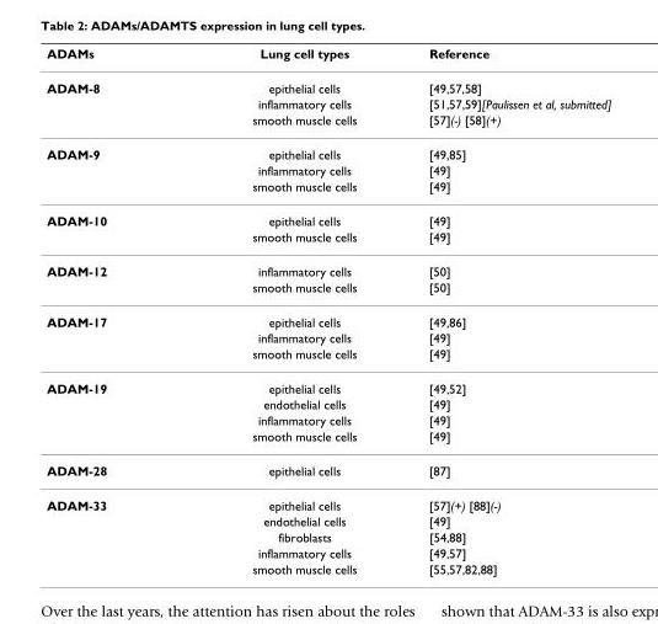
<table><thead><tr><td>ADAMs</td><td>Lung cell types</td><td>Reference</td></tr></thead><tbody><tr><td rowspan="3">ADAM-8</td><td>epithelial cells</td><td>[49,57,58]</td></tr><tr><td>inflammatory cells</td><td>[51,57,59][Paulissen et al, submitted]</td></tr><tr><td>smooth muscle cells</td><td>[57](-) [58](+)</td></tr><tr><td rowspan="3">ADAM-9</td><td>epithelial cells</td><td>[49,85]</td></tr><tr><td>inflammatory cells</td><td>[49]</td></tr><tr><td>smooth muscle cells</td><td>[49]</td></tr><tr><td rowspan="2">ADAM-10</td><td>epithelial cells</td><td>[49]</td></tr><tr><td>smooth muscle cells</td><td>[49]</td></tr><tr><td rowspan="2">ADAM-12</td><td>inflammatory cells</td><td>[50]</td></tr><tr><td>smooth muscle cells</td><td>[50]</td></tr><tr><td rowspan="3">ADAM-17</td><td>epithelial cells</td><td>[49,86]</td></tr><tr><td>inflammatory cells</td><td>[49]</td></tr><tr><td>smooth muscle cells</td><td>[49]</td></tr><tr><td rowspan="4">ADAM-19</td><td>epithelial cells</td><td>[49,52]</td></tr><tr><td>endothelial cells</td><td>[49]</td></tr><tr><td>inflammatory cells</td><td>[49]</td></tr><tr><td>smooth muscle cells</td><td>[49]</td></tr><tr><td>ADAM-28</td><td>epithelial cells</td><td>[87]</td></tr><tr><td rowspan="5">ADAM-33</td><td>epithelial cells</td><td>[57](+) [88](-)</td></tr><tr><td>endothelial cells</td><td>[49]</td></tr><tr><td>fibroblasts</td><td>[54,88]</td></tr><tr><td>inflammatory cells</td><td>[49,57]</td></tr><tr><td>smooth muscle cells</td><td>[55,57,82,88]</td></tr></tbody></table>